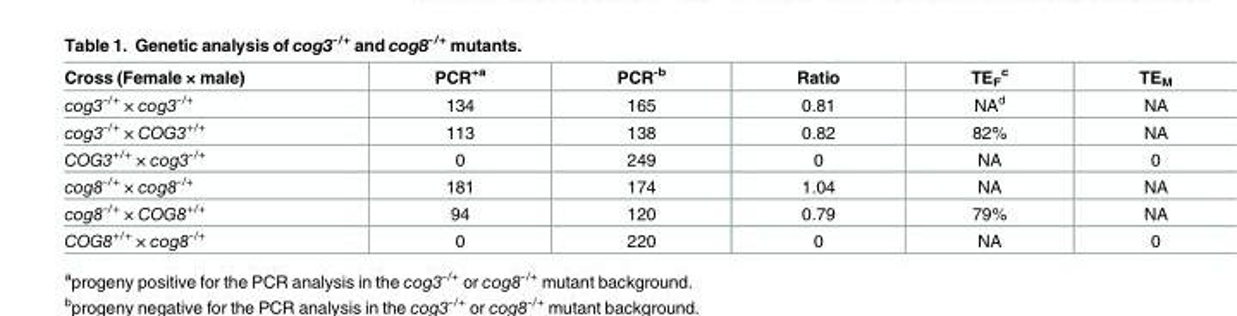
<table><thead><tr><td>Cross (Female × male)</td><td>PCR<sup>+a</sup></td><td>PCR<sup>-b</sup></td><td>Ratio</td><td>TE<sub>F</sub> <sup>c</sup></td><td>TE<sub>M</sub></td></tr></thead><tbody><tr><td>cog3<sup>-/+</sup> × cog3<sup>-/+</sup></td><td>134</td><td>165</td><td>0.81</td><td>NA<sup>d</sup></td><td>NA</td></tr><tr><td>cog3<sup>-/+</sup> × COG3<sup>+/+</sup></td><td>113</td><td>138</td><td>0.82</td><td>82%</td><td>NA</td></tr><tr><td>COG3<sup>+/+</sup> × cog3<sup>-/+</sup></td><td>0</td><td>249</td><td>0</td><td>NA</td><td>0</td></tr><tr><td>cog8<sup>-/+</sup> × cog8<sup>-/+</sup></td><td>181</td><td>174</td><td>1.04</td><td>NA</td><td>NA</td></tr><tr><td>cog8<sup>-/+</sup> × COG8<sup>+/+</sup></td><td>94</td><td>120</td><td>0.79</td><td>79%</td><td>NA</td></tr><tr><td>COG8<sup>+/+</sup> × cog8<sup>-/+</sup></td><td>0</td><td>220</td><td>0</td><td>NA</td><td>0</td></tr></tbody></table>